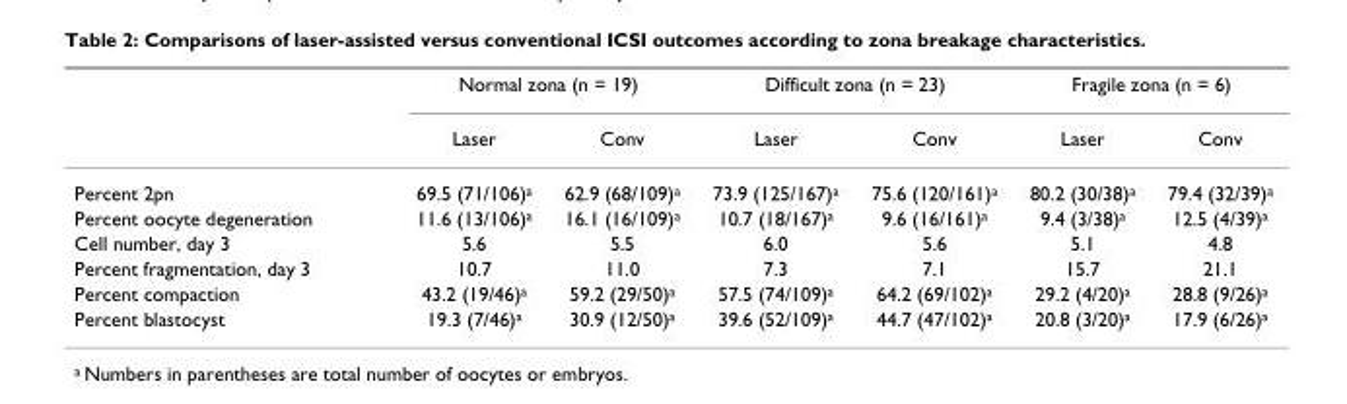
<table><thead><tr><td rowspan="2"></td><td colspan="2">Normal zona (n = 19)</td><td colspan="2">Difficult zona (n = 23)</td><td colspan="2">Fragile zona (n = 6)</td></tr><tr><td>Laser</td><td>Conv</td><td>Laser</td><td>Conv</td><td>Laser</td><td>Conv</td></tr></thead><tbody><tr><td>Percent 2pn</td><td>69.5 (71/106)<sup>a</sup></td><td>62.9 (68/109)<sup>a</sup></td><td>73.9 (125/167)<sup>a</sup></td><td>75.6 (120/161)<sup>a</sup></td><td>80.2 (30/38)<sup>a</sup></td><td>79.4 (32/39)<sup>a</sup></td></tr><tr><td>Percent oocyte degeneration</td><td>11.6 (13/106)<sup>a</sup></td><td>16.1 (16/109)<sup>a</sup></td><td>10.7 (18/167)<sup>a</sup></td><td>9.6 (16/161)<sup>a</sup></td><td>9.4 (3/38)<sup>a</sup></td><td>12.5 (4/39)<sup>a</sup></td></tr><tr><td>Cell number, day 3</td><td>5.6</td><td>5.5</td><td>6.0</td><td>5.6</td><td>5.1</td><td>4.8</td></tr><tr><td>Percent fragmentation, day 3</td><td>10.7</td><td>11.0</td><td>7.3</td><td>7.1</td><td>15.7</td><td>21.1</td></tr><tr><td>Percent compaction</td><td>43.2 (19/46)<sup>a</sup></td><td>59.2 (29/50)<sup>a</sup></td><td>57.5 (74/109)<sup>a</sup></td><td>64.2 (69/102)<sup>a</sup></td><td>29.2 (4/20)<sup>a</sup></td><td>28.8 (9/26)<sup>a</sup></td></tr><tr><td>Percent blastocyst</td><td>19.3 (7/46)<sup>a</sup></td><td>30.9 (12/50)<sup>a</sup></td><td>39.6 (52/109)<sup>a</sup></td><td>44.7 (47/102)<sup>a</sup></td><td>20.8 (3/20)<sup>a</sup></td><td>17.9 (6/26)<sup>a</sup></td></tr></tbody></table>